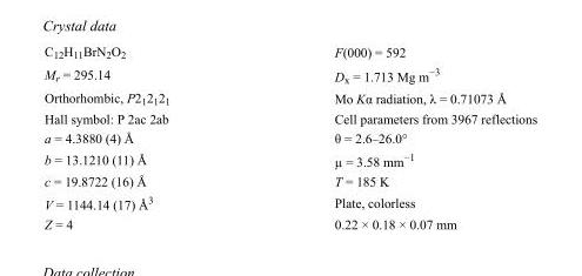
<table><tbody><tr><td>C<sub>12</sub>H<sub>11</sub>BrN<sub>2</sub>O<sub>2</sub></td><td>F(000) = 592</td></tr><tr><td>M<sub>r</sub> = 295.14</td><td>D<sub>x</sub> = 1.713 Mg m<sup>−3</sup></td></tr><tr><td>Orthorhombic, P2<sub>1</sub>2<sub>1</sub>2<sub>1</sub></td><td>Mo Kα radiation, λ = 0.71073 Å</td></tr><tr><td>Hall symbol: P 2ac 2ab</td><td>Cell parameters from 3967 reflections</td></tr><tr><td>a = 4.3880 (4) Å</td><td>θ = 2.6–26.0°</td></tr><tr><td>b = 13.1210 (11) Å</td><td>µ = 3.58 mm<sup>−1</sup></td></tr><tr><td>c = 19.8722 (16) Å</td><td>T = 185 K</td></tr><tr><td>V = 1144.14 (17) Å<sup>3</sup></td><td>Plate, colorless</td></tr><tr><td>Z = 4</td><td>0.22 × 0.18 × 0.07 mm</td></tr></tbody></table>